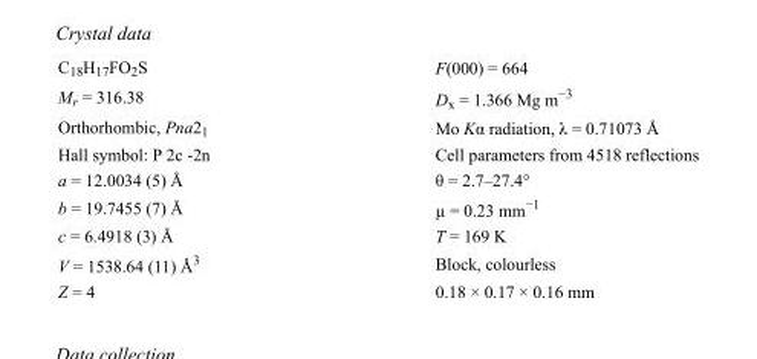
<table><tbody><tr><td>C<sub>18</sub>H<sub>17</sub>FO<sub>2</sub>S</td><td>F(000) = 664</td></tr><tr><td>M<sub>r</sub> = 316.38</td><td>D<sub>x</sub> = 1.366 Mg m<sup>−3</sup></td></tr><tr><td>Orthorhombic, Pna2<sub>1</sub></td><td>Mo Kα radiation, λ = 0.71073 Å</td></tr><tr><td>Hall symbol: P 2c -2n</td><td>Cell parameters from 4518 reflections</td></tr><tr><td>a = 12.0034 (5) Å</td><td>θ = 2.7–27.4°</td></tr><tr><td>b = 19.7455 (7) Å</td><td>µ = 0.23 mm<sup>−1</sup></td></tr><tr><td>c = 6.4918 (3) Å</td><td>T = 169 K</td></tr><tr><td>V = 1538.64 (11) Å<sup>3</sup></td><td>Block, colourless</td></tr><tr><td>Z = 4</td><td>0.18 × 0.17 × 0.16 mm</td></tr></tbody></table>